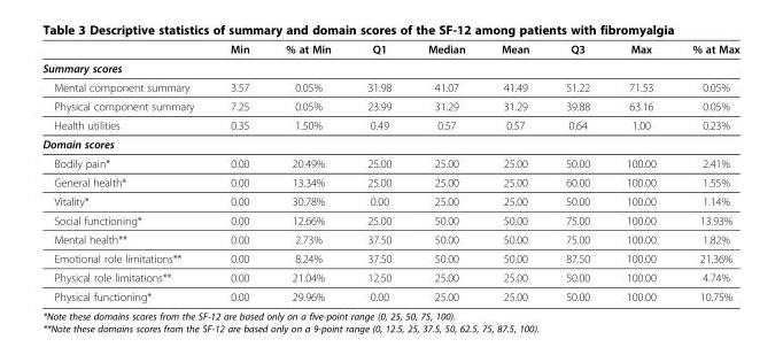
<table><thead><tr><td></td><td>Min</td><td>% at Min</td><td>Q1</td><td>Median</td><td>Mean</td><td>Q3</td><td>Max</td><td>% at Max</td></tr></thead><tbody><tr><td colspan="9">Summary scores</td></tr><tr><td>Mental component summary</td><td>3.57</td><td>0.05%</td><td>31.98</td><td>41.07</td><td>41.49</td><td>51.22</td><td>71.53</td><td>0.05%</td></tr><tr><td>Physical component summary</td><td>7.25</td><td>0.05%</td><td>23.99</td><td>31.29</td><td>31.29</td><td>39.88</td><td>63.16</td><td>0.05%</td></tr><tr><td>Health utilities</td><td>0.35</td><td>1.50%</td><td>0.49</td><td>0.57</td><td>0.57</td><td>0.64</td><td>1.00</td><td>0.23%</td></tr><tr><td colspan="9">Domain scores</td></tr><tr><td>Bodily pain*</td><td>0.00</td><td>20.49%</td><td>25.00</td><td>25.00</td><td>25.00</td><td>50.00</td><td>100.00</td><td>2.41%</td></tr><tr><td>General health*</td><td>0.00</td><td>13.34%</td><td>25.00</td><td>25.00</td><td>25.00</td><td>60.00</td><td>100.00</td><td>1.55%</td></tr><tr><td>Vitality*</td><td>0.00</td><td>30.78%</td><td>0.00</td><td>25.00</td><td>25.00</td><td>50.00</td><td>100.00</td><td>1.14%</td></tr><tr><td>Social functioning*</td><td>0.00</td><td>12.66%</td><td>25.00</td><td>50.00</td><td>50.00</td><td>75.00</td><td>100.00</td><td>13.93%</td></tr><tr><td>Mental health**</td><td>0.00</td><td>2.73%</td><td>37.50</td><td>50.00</td><td>50.00</td><td>75.00</td><td>100.00</td><td>1.82%</td></tr><tr><td>Emotional role limitations**</td><td>0.00</td><td>8.24%</td><td>37.50</td><td>50.00</td><td>50.00</td><td>87.50</td><td>100.00</td><td>21.36%</td></tr><tr><td>Physical role limitations**</td><td>0.00</td><td>21.04%</td><td>12.50</td><td>25.00</td><td>25.00</td><td>50.00</td><td>100.00</td><td>4.74%</td></tr><tr><td>Physical functioning*</td><td>0.00</td><td>29.96%</td><td>0.00</td><td>25.00</td><td>25.00</td><td>50.00</td><td>100.00</td><td>10.75%</td></tr></tbody></table>